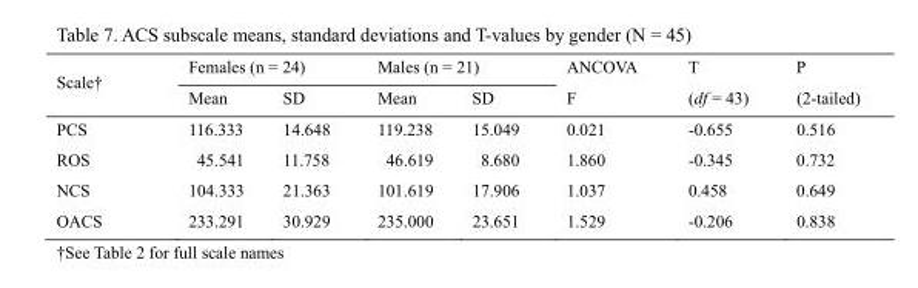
<table><thead><tr><td rowspan="2">Scale†</td><td colspan="2">Females (n = 24)</td><td colspan="2">Males (n = 21)</td><td rowspan="2">ANCOVA F</td><td rowspan="2">T (df = 43)</td><td rowspan="2">P (2-tailed)</td></tr><tr><td>Mean</td><td>SD</td><td>Mean</td><td>SD</td></tr></thead><tbody><tr><td>PCS</td><td>116.333</td><td>14.648</td><td>119.238</td><td>15.049</td><td>0.021</td><td>-0.655</td><td>0.516</td></tr><tr><td>ROS</td><td>45.541</td><td>11.758</td><td>46.619</td><td>8.680</td><td>1.860</td><td>-0.345</td><td>0.732</td></tr><tr><td>NCS</td><td>104.333</td><td>21.363</td><td>101.619</td><td>17.906</td><td>1.037</td><td>0.458</td><td>0.649</td></tr><tr><td>OACS</td><td>233.291</td><td>30.929</td><td>235.000</td><td>23.651</td><td>1.529</td><td>-0.206</td><td>0.838</td></tr></tbody></table>